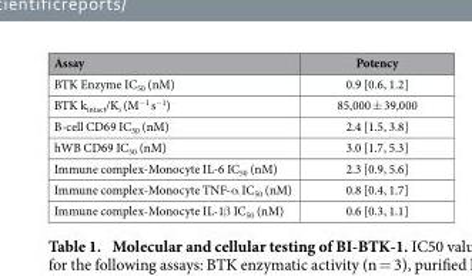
<table><thead><tr><td>Assay</td><td>Potency</td></tr></thead><tbody><tr><td>BTK Enzyme IC<sub>50</sub> (nM)</td><td>0.9 [0.6, 1.2]</td></tr><tr><td>BTK k<sub>intact</sub>/K<sub>i</sub> (M<sup>−1</sup> s<sup>−1</sup>)</td><td>85,000 ± 39,000</td></tr><tr><td>B-cell CD69 IC<sub>50</sub> (nM)</td><td>2.4 [1.5, 3.8]</td></tr><tr><td>hWB CD69 IC<sub>50</sub> (nM)</td><td>3.0 [1.7, 5.3]</td></tr><tr><td>Immune complex-Monocyte IL-6 IC<sub>50</sub> (nM)</td><td>2.3 [0.9, 5.6]</td></tr><tr><td>Immune complex-Monocyte TNF-α IC<sub>50</sub> (nM)</td><td>0.8 [0.4, 1.7]</td></tr><tr><td>Immune complex-Monocyte IL-1β IC<sub>50</sub> (nM)</td><td>0.6 [0.3, 1.1]</td></tr></tbody></table>